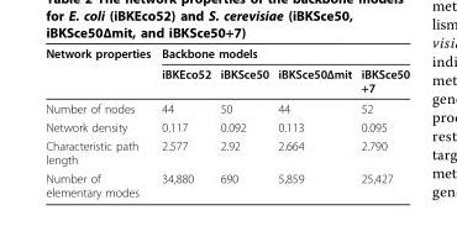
<table><thead><tr><td rowspan="2">Network properties</td><td colspan="4">Backbone models</td></tr><tr><td>iBKEco52</td><td>iBKSce50</td><td>iBKSce50Δmit</td><td>iBKSce50 +7</td></tr></thead><tbody><tr><td>Number of nodes</td><td>44</td><td>50</td><td>44</td><td>52</td></tr><tr><td>Network density</td><td>0.117</td><td>0.092</td><td>0.113</td><td>0.095</td></tr><tr><td>Characteristic path length</td><td>2.577</td><td>2.92</td><td>2.664</td><td>2.790</td></tr><tr><td>Number of elementary modes</td><td>34,880</td><td>690</td><td>5,859</td><td>25,427</td></tr></tbody></table>